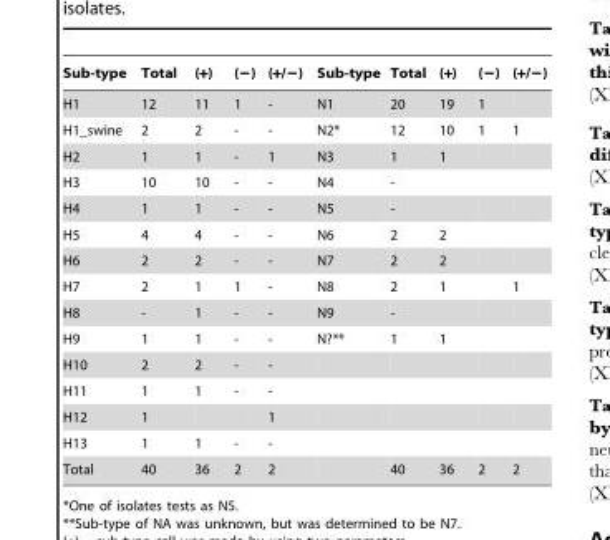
<table><thead><tr><td>Sub-type</td><td>Total</td><td>(+)</td><td>(−)</td><td>(+/−)</td><td>Sub-type</td><td>Total</td><td>(+)</td><td>(−)</td><td>(+/−)</td></tr></thead><tbody><tr><td>H1</td><td>12</td><td>11</td><td>1</td><td>-</td><td>N1</td><td>20</td><td>19</td><td>1</td><td></td></tr><tr><td>H1_swine</td><td>2</td><td>2</td><td>-</td><td>-</td><td>N2*</td><td>12</td><td>10</td><td>1</td><td>1</td></tr><tr><td>H2</td><td>1</td><td>1</td><td>-</td><td>1</td><td>N3</td><td>1</td><td>1</td><td></td><td></td></tr><tr><td>H3</td><td>10</td><td>10</td><td>-</td><td>-</td><td>N4</td><td>-</td><td></td><td></td><td></td></tr><tr><td>H4</td><td>1</td><td>1</td><td>-</td><td>-</td><td>N5</td><td>-</td><td></td><td></td><td></td></tr><tr><td>H5</td><td>4</td><td>4</td><td>-</td><td>-</td><td>N6</td><td>2</td><td>2</td><td></td><td></td></tr><tr><td>H6</td><td>2</td><td>2</td><td>-</td><td>-</td><td>N7</td><td>2</td><td>2</td><td></td><td></td></tr><tr><td>H7</td><td>2</td><td>1</td><td>1</td><td>-</td><td>N8</td><td>2</td><td>1</td><td></td><td>1</td></tr><tr><td>H8</td><td>-</td><td>1</td><td>-</td><td>-</td><td>N9</td><td>-</td><td></td><td></td><td></td></tr><tr><td>H9</td><td>1</td><td>1</td><td>-</td><td>-</td><td>N?**</td><td>1</td><td>1</td><td></td><td></td></tr><tr><td>H10</td><td>2</td><td>2</td><td>-</td><td>-</td><td></td><td></td><td></td><td></td><td></td></tr><tr><td>H11</td><td>1</td><td>1</td><td>-</td><td>-</td><td></td><td></td><td></td><td></td><td></td></tr><tr><td>H12</td><td>1</td><td></td><td></td><td>1</td><td></td><td></td><td></td><td></td><td></td></tr><tr><td>H13</td><td>1</td><td>1</td><td>-</td><td>-</td><td></td><td></td><td></td><td></td><td></td></tr><tr><td>Total</td><td>40</td><td>36</td><td>2</td><td>2</td><td></td><td>40</td><td>36</td><td>2</td><td>2</td></tr></tbody></table>